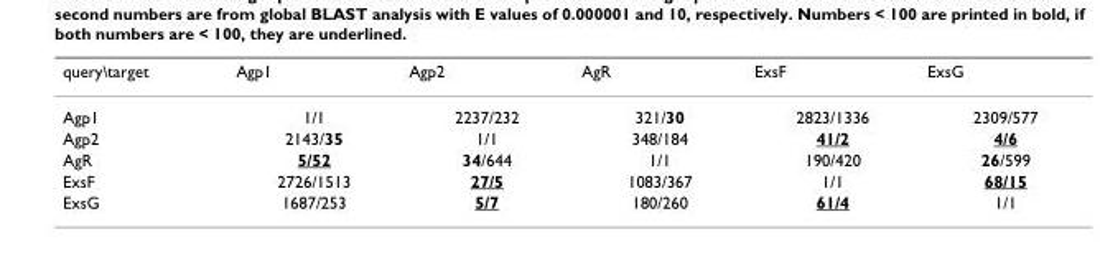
<table><thead><tr><td>query\target</td><td>Agp1</td><td>Agp2</td><td>AgR</td><td>ExsF</td><td>ExsG</td></tr></thead><tbody><tr><td>Agp1</td><td>1/1</td><td>2237/232</td><td>321/30</td><td>2823/1336</td><td>2309/577</td></tr><tr><td>Agp2</td><td>2143/35</td><td>1/1</td><td>348/184</td><td>41/2</td><td>4/6</td></tr><tr><td>AgR</td><td>5/52</td><td>34/644</td><td>1/1</td><td>190/420</td><td>26/599</td></tr><tr><td>ExsF</td><td>2726/1513</td><td>27/5</td><td>1083/367</td><td>1/1</td><td>68/15</td></tr><tr><td>ExsG</td><td>1687/253</td><td>5/7</td><td>180/260</td><td>61/4</td><td>1/1</td></tr></tbody></table>